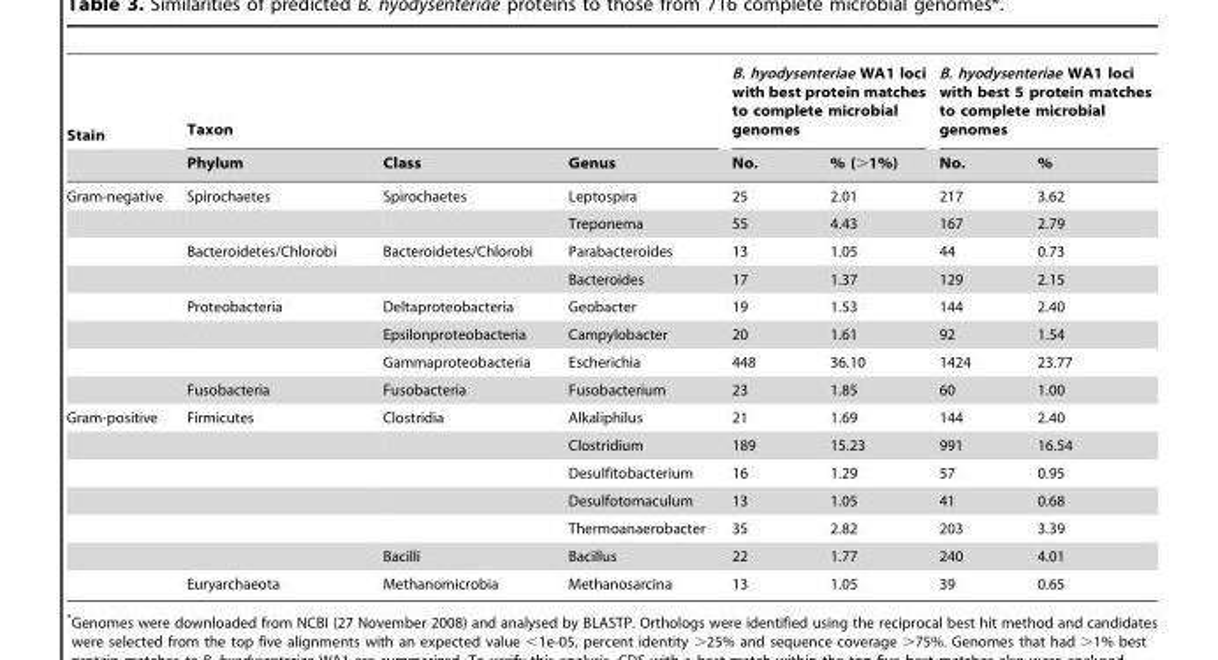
<table><thead><tr><td rowspan="2">Stain</td><td colspan="3">Taxon</td><td colspan="2">B. hyodysenteriae WA1 loci with best protein matches to complete microbial genomes</td><td colspan="2">B. hyodysenteriae WA1 loci with best 5 protein matches to complete microbial genomes</td></tr><tr><td>Phylum</td><td>Class</td><td>Genus</td><td>No.</td><td>% (&gt;1%)</td><td>No.</td><td>%</td></tr></thead><tbody><tr><td rowspan="8">Gram-negative</td><td>Spirochaetes</td><td>Spirochaetes</td><td>Leptospira</td><td>25</td><td>2.01</td><td>217</td><td>3.62</td></tr><tr><td></td><td></td><td>Treponema</td><td>55</td><td>4.43</td><td>167</td><td>2.79</td></tr><tr><td>Bacteroidetes/Chlorobi</td><td>Bacteroidetes/Chlorobi</td><td>Parabacteroides</td><td>13</td><td>1.05</td><td>44</td><td>0.73</td></tr><tr><td></td><td></td><td>Bacteroides</td><td>17</td><td>1.37</td><td>129</td><td>2.15</td></tr><tr><td>Proteobacteria</td><td>Deltaproteobacteria</td><td>Geobacter</td><td>19</td><td>1.53</td><td>144</td><td>2.40</td></tr><tr><td></td><td>Epsilonproteobacteria</td><td>Campylobacter</td><td>20</td><td>1.61</td><td>92</td><td>1.54</td></tr><tr><td></td><td>Gammaproteobacteria</td><td>Escherichia</td><td>448</td><td>36.10</td><td>1424</td><td>23.77</td></tr><tr><td>Fusobacteria</td><td>Fusobacteria</td><td>Fusobacterium</td><td>23</td><td>1.85</td><td>60</td><td>1.00</td></tr><tr><td rowspan="7">Gram-positive</td><td>Firmicutes</td><td>Clostridia</td><td>Alkaliphilus</td><td>21</td><td>1.69</td><td>144</td><td>2.40</td></tr><tr><td></td><td></td><td>Clostridium</td><td>189</td><td>15.23</td><td>991</td><td>16.54</td></tr><tr><td></td><td></td><td>Desulfitobacterium</td><td>16</td><td>1.29</td><td>57</td><td>0.95</td></tr><tr><td></td><td></td><td>Desulfotomaculum</td><td>13</td><td>1.05</td><td>41</td><td>0.68</td></tr><tr><td></td><td></td><td>Thermoanaerobacter</td><td>35</td><td>2.82</td><td>203</td><td>3.39</td></tr><tr><td></td><td>Bacilli</td><td>Bacillus</td><td>22</td><td>1.77</td><td>240</td><td>4.01</td></tr><tr><td>Euryarchaeota</td><td>Methanomicrobia</td><td>Methanosarcina</td><td>13</td><td>1.05</td><td>39</td><td>0.65</td></tr></tbody></table>